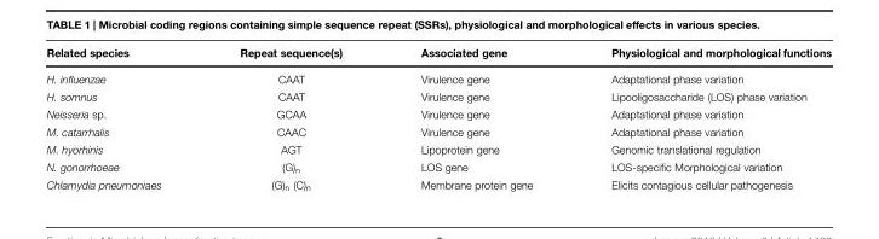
<table><thead><tr><td>Related species</td><td>Repeat sequence(s)</td><td>Associated gene</td><td>Physiological and morphological functions</td></tr></thead><tbody><tr><td>H. influenzae</td><td>CAAT</td><td>Virulence gene</td><td>Adaptational phase variation</td></tr><tr><td>H. somnus</td><td>CAAT</td><td>Virulence gene</td><td>Lipooligosaccharide (LOS) phase variation</td></tr><tr><td>Neisseria sp.</td><td>GCAA</td><td>Virulence gene</td><td>Adaptational phase variation</td></tr><tr><td>M. catarrhalis</td><td>CAAC</td><td>Virulence gene</td><td>Adaptational phase variation</td></tr><tr><td>M. hyorhinis</td><td>AGT</td><td>Lipoprotein gene</td><td>Genomic translational regulation</td></tr><tr><td>N. gonorrhoeae</td><td>(G)<sub>n</sub></td><td>LOS gene</td><td>LOS-specific Morphological variation</td></tr><tr><td>Chlamydia pneumoniaes</td><td>(G)<sub>n</sub> (C)<sub>n</sub></td><td>Membrane protein gene</td><td>Elicits contagious cellular pathogenesis</td></tr></tbody></table>